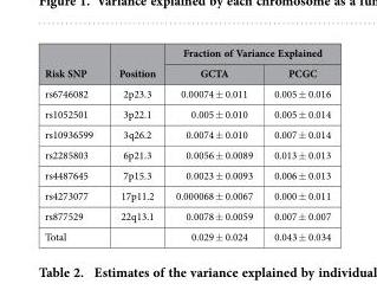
<table><thead><tr><td rowspan="2">Risk SNP</td><td rowspan="2">Position</td><td colspan="2">Fraction of Variance Explained</td></tr><tr><td>GCTA</td><td>PCGC</td></tr></thead><tbody><tr><td>rs6746082</td><td>2p23.3</td><td>0.00074 ± 0.011</td><td>0.005 ± 0.016</td></tr><tr><td>rs1052501</td><td>3p22.1</td><td>0.005 ± 0.010</td><td>0.005 ± 0.014</td></tr><tr><td>rs10936599</td><td>3q26.2</td><td>0.0074 ± 0.010</td><td>0.007 ± 0.014</td></tr><tr><td>rs2285803</td><td>6p21.3</td><td>0.0056 ± 0.0089</td><td>0.013 ± 0.013</td></tr><tr><td>rs4487645</td><td>7p15.3</td><td>0.0023 ± 0.0093</td><td>0.006 ± 0.013</td></tr><tr><td>rs4273077</td><td>17p11.2</td><td>0.000068 ± 0.0067</td><td>0.000 ± 0.011</td></tr><tr><td>rs877529</td><td>22q13.1</td><td>0.0078 ± 0.0059</td><td>0.007 ± 0.007</td></tr><tr><td>Total</td><td></td><td>0.029 ± 0.024</td><td>0.043 ± 0.034</td></tr></tbody></table>